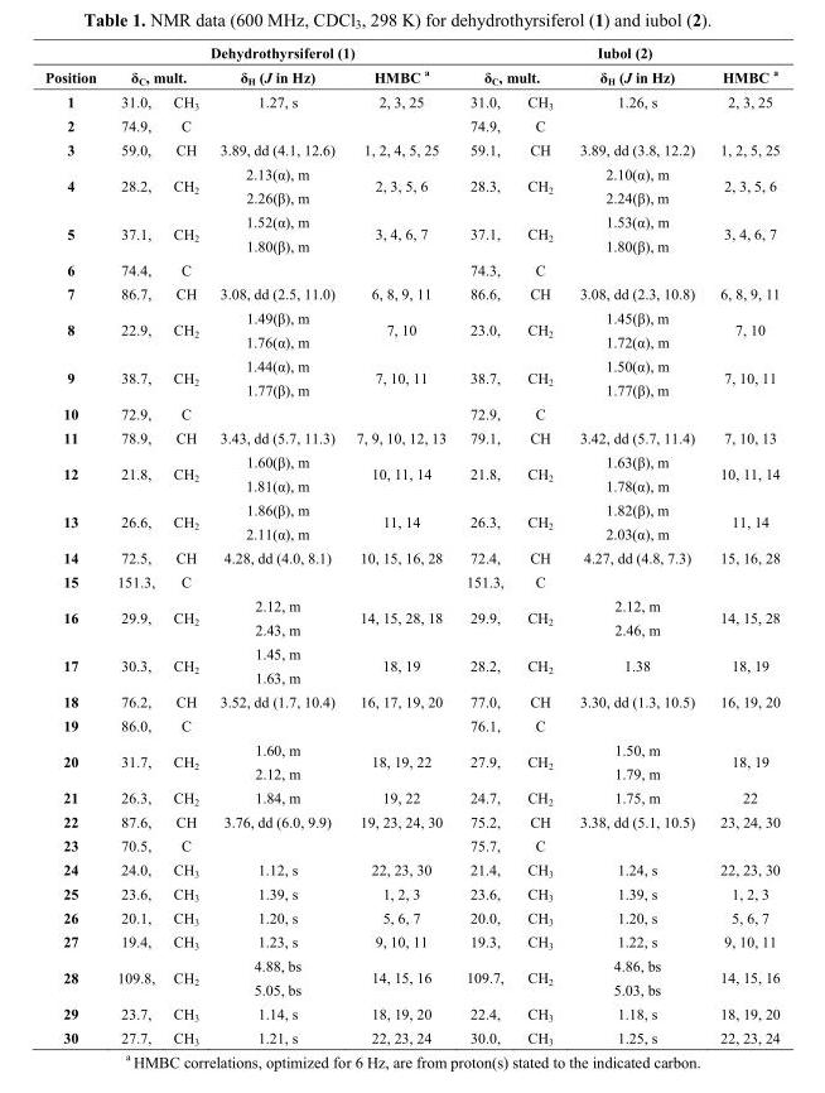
<table><thead><tr><td rowspan="3">Position 1</td><td colspan="4">Dehydrothyrsiferol (1)</td><td colspan="4">Iubol (2)</td></tr><tr><td colspan="2">δ<sub>C</sub>, mult.</td><td rowspan="2">δ<sub>H</sub> (J in Hz) 1.27, s</td><td rowspan="2">HMBC a 2, 3, 25</td><td colspan="2">δ<sub>C</sub>, mult.</td><td rowspan="2">δ<sub>H</sub> (J in Hz) 1.26, s</td><td rowspan="2">HMBC a 2, 3, 25</td></tr><tr><td>31.0,</td><td>CH<sub>3</sub></td><td>31.0,</td><td>CH<sub>3</sub></td></tr></thead><tbody><tr><td>2</td><td>74.9,</td><td>C</td><td></td><td></td><td>74.9,</td><td>C</td><td></td><td></td></tr><tr><td>3</td><td>59.0,</td><td>CH</td><td>3.89, dd (4.1, 12.6)</td><td>1, 2, 4, 5, 25</td><td>59.1,</td><td>CH</td><td>3.89, dd (3.8, 12.2)</td><td>1, 2, 5, 25</td></tr><tr><td>4</td><td>28.2,</td><td>CH<sub>2</sub></td><td>2.13(α), m 2.26(β), m</td><td>2, 3, 5, 6</td><td>28.3,</td><td>CH<sub>2</sub></td><td>2.10(α), m 2.24(β), m</td><td>2, 3, 5, 6</td></tr><tr><td>5</td><td>37.1,</td><td>CH<sub>2</sub></td><td>1.52(α), m 1.80(β), m</td><td>3, 4, 6, 7</td><td>37.1,</td><td>CH<sub>2</sub></td><td>1.53(α), m 1.80(β), m</td><td>3, 4, 6, 7</td></tr><tr><td>6</td><td>74.4,</td><td>C</td><td></td><td></td><td>74.3,</td><td>C</td><td></td><td></td></tr><tr><td>7</td><td>86.7,</td><td>CH</td><td>3.08, dd (2.5, 11.0)</td><td>6, 8, 9, 11</td><td>86.6,</td><td>CH</td><td>3.08, dd (2.3, 10.8)</td><td>6, 8, 9, 11</td></tr><tr><td>8</td><td>22.9,</td><td>CH<sub>2</sub></td><td>1.49(β), m 1.76(α), m</td><td>7, 10</td><td>23.0,</td><td>CH<sub>2</sub></td><td>1.45(β), m 1.72(α), m</td><td>7, 10</td></tr><tr><td>9</td><td>38.7,</td><td>CH<sub>2</sub></td><td>1.44(α), m 1.77(β), m</td><td>7, 10, 11</td><td>38.7,</td><td>CH<sub>2</sub></td><td>1.50(α), m 1.77(β), m</td><td>7, 10, 11</td></tr><tr><td>10</td><td>72.9,</td><td>C</td><td></td><td></td><td>72.9,</td><td>C</td><td></td><td></td></tr><tr><td>11</td><td>78.9,</td><td>CH</td><td>3.43, dd (5.7, 11.3)</td><td>7, 9, 10, 12, 13</td><td>79.1,</td><td>CH</td><td>3.42, dd (5.7, 11.4)</td><td>7, 10, 13</td></tr><tr><td>12</td><td>21.8,</td><td>CH<sub>2</sub></td><td>1.60(β), m 1.81(α), m</td><td>10, 11, 14</td><td>21.8,</td><td>CH<sub>2</sub></td><td>1.63(β), m 1.78(α), m</td><td>10, 11, 14</td></tr><tr><td>13</td><td>26.6,</td><td>CH<sub>2</sub></td><td>1.86(β), m 2.11(α), m</td><td>11, 14</td><td>26.3,</td><td>CH<sub>2</sub></td><td>1.82(β), m 2.03(α), m</td><td>11, 14</td></tr><tr><td>14</td><td>72.5,</td><td>CH</td><td>4.28, dd (4.0, 8.1)</td><td>10, 15, 16, 28</td><td>72.4,</td><td>CH</td><td>4.27, dd (4.8, 7.3)</td><td>15, 16, 28</td></tr><tr><td>15</td><td>151.3,</td><td>C</td><td></td><td></td><td>151.3,</td><td>C</td><td></td><td></td></tr><tr><td>16</td><td>29.9,</td><td>CH<sub>2</sub></td><td>2.12, m 2.43, m</td><td>14, 15, 28, 18</td><td>29.9,</td><td>CH<sub>2</sub></td><td>2.12, m 2.46, m</td><td>14, 15, 28</td></tr><tr><td>17</td><td>30.3,</td><td>CH<sub>2</sub></td><td>1.45, m 1.63, m</td><td>18, 19</td><td>28.2,</td><td>CH<sub>2</sub></td><td>1.38</td><td>18, 19</td></tr><tr><td>18</td><td>76.2,</td><td>CH</td><td>3.52, dd (1.7, 10.4)</td><td>16, 17, 19, 20</td><td>77.0,</td><td>CH</td><td>3.30, dd (1.3, 10.5)</td><td>16, 19, 20</td></tr><tr><td>19</td><td>86.0,</td><td>C</td><td></td><td></td><td>76.1,</td><td>C</td><td></td><td></td></tr><tr><td>20</td><td>31.7,</td><td>CH<sub>2</sub></td><td>1.60, m 2.12, m</td><td>18, 19, 22</td><td>27.9,</td><td>CH<sub>2</sub></td><td>1.50, m 1.79, m</td><td>18, 19</td></tr><tr><td>21</td><td>26.3,</td><td>CH<sub>2</sub></td><td>1.84, m</td><td>19, 22</td><td>24.7,</td><td>CH<sub>2</sub></td><td>1.75, m</td><td>22</td></tr><tr><td>22</td><td>87.6,</td><td>CH</td><td>3.76, dd (6.0, 9.9)</td><td>19, 23, 24, 30</td><td>75.2,</td><td>CH</td><td>3.38, dd (5.1, 10.5)</td><td>23, 24, 30</td></tr><tr><td>23</td><td>70.5,</td><td>C</td><td></td><td></td><td>75.7,</td><td>C</td><td></td><td></td></tr><tr><td>24</td><td>24.0,</td><td>CH<sub>3</sub></td><td>1.12, s</td><td>22, 23, 30</td><td>21.4,</td><td>CH<sub>3</sub></td><td>1.24, s</td><td>22, 23, 30</td></tr><tr><td>25</td><td>23.6,</td><td>CH<sub>3</sub></td><td>1.39, s</td><td>1, 2, 3</td><td>23.6,</td><td>CH<sub>3</sub></td><td>1.39, s</td><td>1, 2, 3</td></tr><tr><td>26</td><td>20.1,</td><td>CH<sub>3</sub></td><td>1.20, s</td><td>5, 6, 7</td><td>20.0,</td><td>CH<sub>3</sub></td><td>1.20, s</td><td>5, 6, 7</td></tr><tr><td>27</td><td>19.4,</td><td>CH<sub>3</sub></td><td>1.23, s</td><td>9, 10, 11</td><td>19.3,</td><td>CH<sub>3</sub></td><td>1.22, s</td><td>9, 10, 11</td></tr><tr><td>28</td><td>109.8,</td><td>CH<sub>2</sub></td><td>4.88, bs 5.05, bs</td><td>14, 15, 16</td><td>109.7,</td><td>CH<sub>2</sub></td><td>4.86, bs 5.03, bs</td><td>14, 15, 16</td></tr><tr><td>29</td><td>23.7,</td><td>CH<sub>3</sub></td><td>1.14, s</td><td>18, 19, 20</td><td>22.4,</td><td>CH<sub>3</sub></td><td>1.18, s</td><td>18, 19, 20</td></tr><tr><td>30</td><td>27.7,</td><td>CH<sub>3</sub></td><td>1.21, s</td><td>22, 23, 24</td><td>30.0,</td><td>CH<sub>3</sub></td><td>1.25, s</td><td>22, 23, 24</td></tr></tbody></table>